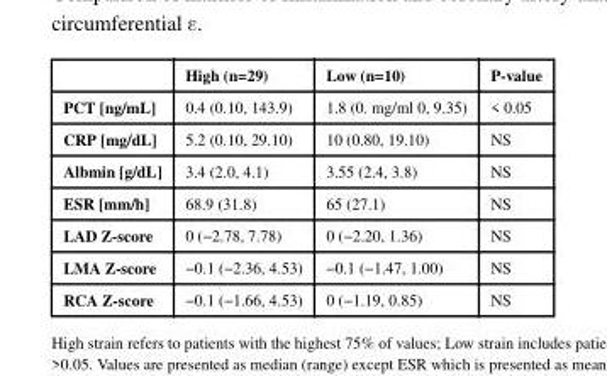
<table><thead><tr><td></td><td>High (n=29)</td><td>Low (n=10)</td><td>P-value</td></tr></thead><tbody><tr><td>PCT [ng/mL]</td><td>0.4 (0.10, 143.9)</td><td>1.8 (0. mg/ml 0, 9.35)</td><td>&lt; 0.05</td></tr><tr><td>CRP [mg/dL]</td><td>5.2 (0.10, 29.10)</td><td>10 (0.80, 19.10)</td><td>NS</td></tr><tr><td>Albmin [g/dL]</td><td>3.4 (2.0, 4.1)</td><td>3.55 (2.4, 3.8)</td><td>NS</td></tr><tr><td>ESR [mm/h]</td><td>68.9 (31.8)</td><td>65 (27.1)</td><td>NS</td></tr><tr><td>LAD Z-score</td><td>0 (−2.78, 7.78)</td><td>0 (−2.20, 1.36)</td><td>NS</td></tr><tr><td>LMA Z-score</td><td>−0.1 (−2.36, 4.53)</td><td>−0.1 (−1.47, 1.00)</td><td>NS</td></tr><tr><td>RCA Z-score</td><td>−0.1 (−1.66, 4.53)</td><td>0 (−1.19, 0.85)</td><td>NS</td></tr></tbody></table>